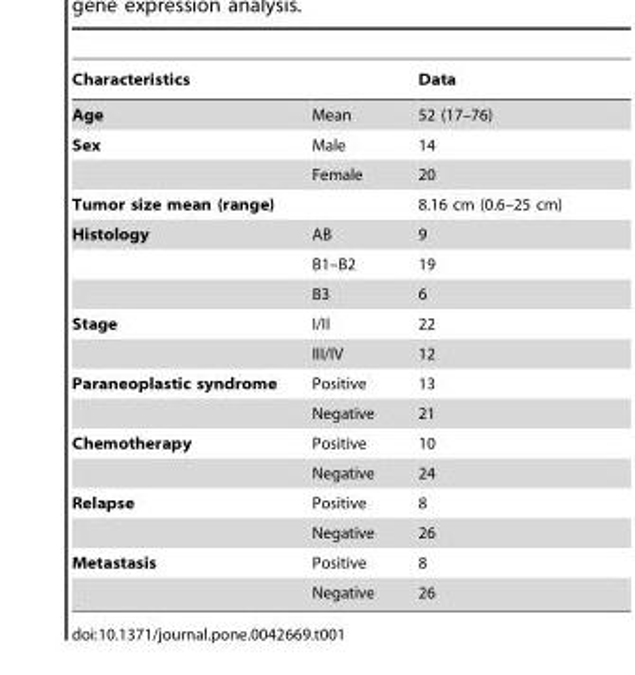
<table><thead><tr><td>Characteristics</td><td></td><td>Data</td></tr></thead><tbody><tr><td>Age</td><td>Mean</td><td>52 (17–76)</td></tr><tr><td rowspan="2">Sex</td><td>Male</td><td>14</td></tr><tr><td>Female</td><td>20</td></tr><tr><td>Tumor size mean (range)</td><td></td><td>8.16 cm (0.6–25 cm)</td></tr><tr><td rowspan="3">Histology</td><td>AB</td><td>9</td></tr><tr><td>B1–B2</td><td>19</td></tr><tr><td>B3</td><td>6</td></tr><tr><td rowspan="2">Stage</td><td>I/II</td><td>22</td></tr><tr><td>III/IV</td><td>12</td></tr><tr><td rowspan="2">Paraneoplastic syndrome</td><td>Positive</td><td>13</td></tr><tr><td>Negative</td><td>21</td></tr><tr><td rowspan="2">Chemotherapy</td><td>Positive</td><td>10</td></tr><tr><td>Negative</td><td>24</td></tr><tr><td rowspan="2">Relapse</td><td>Positive</td><td>8</td></tr><tr><td>Negative</td><td>26</td></tr><tr><td rowspan="2">Metastasis</td><td>Positive</td><td>8</td></tr><tr><td>Negative</td><td>26</td></tr></tbody></table>